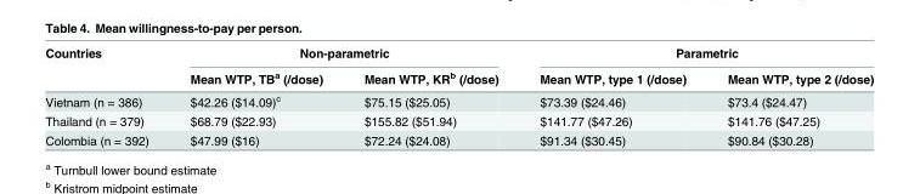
<table><thead><tr><td rowspan="2">Countries</td><td colspan="2">Non-parametric</td><td colspan="2">Parametric</td></tr><tr><td>Mean WTP, TB<sup>a</sup> (/dose)</td><td>Mean WTP, KR<sup>b</sup> (/dose)</td><td>Mean WTP, type 1 (/dose)</td><td>Mean WTP, type 2 (/dose)</td></tr></thead><tbody><tr><td>Vietnam (n = 386)</td><td>$42.26 ($14.09)<sup>c</sup></td><td>$75.15 ($25.05)</td><td>$73.39 ($24.46)</td><td>$73.4 ($24.47)</td></tr><tr><td>Thailand (n = 379)</td><td>$68.79 ($22.93)</td><td>$155.82 ($51.94)</td><td>$141.77 ($47.26)</td><td>$141.76 ($47.25)</td></tr><tr><td>Colombia (n = 392)</td><td>$47.99 ($16)</td><td>$72.24 ($24.08)</td><td>$91.34 ($30.45)</td><td>$90.84 ($30.28)</td></tr></tbody></table>